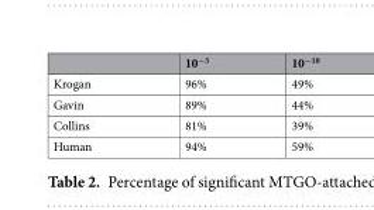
<table><thead><tr><td></td><td>10<sup>−3</sup></td><td>10<sup>−10</sup></td></tr></thead><tbody><tr><td>Krogan</td><td>96%</td><td>49%</td></tr><tr><td>Gavin</td><td>89%</td><td>44%</td></tr><tr><td>Collins</td><td>81%</td><td>39%</td></tr><tr><td>Human</td><td>94%</td><td>59%</td></tr></tbody></table>